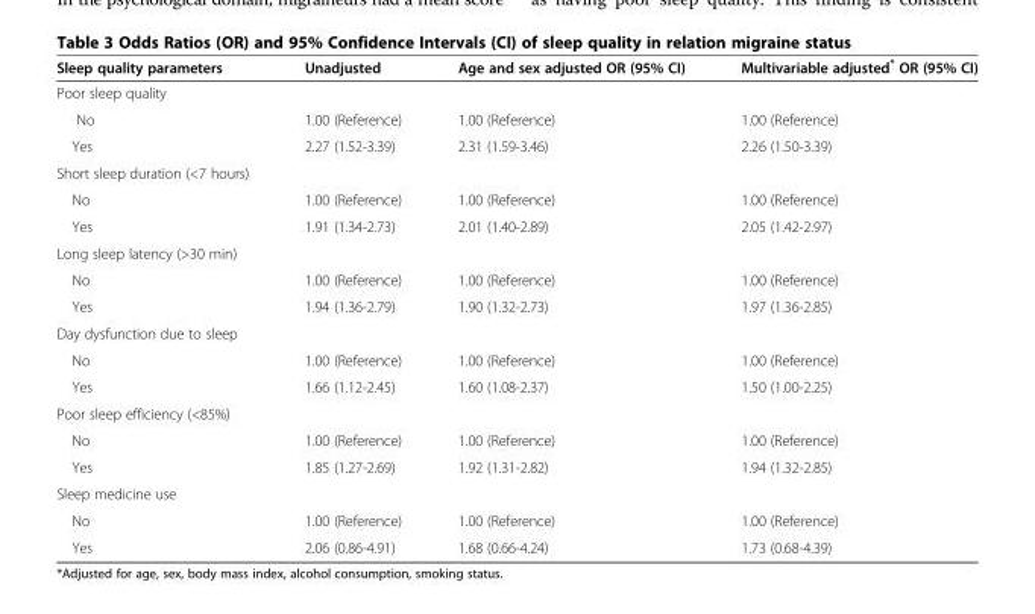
<table><thead><tr><td>Sleep quality parameters</td><td>Unadjusted</td><td>Age and sex adjusted OR (95% CI)</td><td>Multivariable adjusted* OR (95% CI)</td></tr></thead><tbody><tr><td colspan="4">Poor sleep quality</td></tr><tr><td>No</td><td>1.00 (Reference)</td><td>1.00 (Reference)</td><td>1.00 (Reference)</td></tr><tr><td>Yes</td><td>2.27 (1.52-3.39)</td><td>2.31 (1.59-3.46)</td><td>2.26 (1.50-3.39)</td></tr><tr><td colspan="4">Short sleep duration (&lt;7 hours)</td></tr><tr><td>No</td><td>1.00 (Reference)</td><td>1.00 (Reference)</td><td>1.00 (Reference)</td></tr><tr><td>Yes</td><td>1.91 (1.34-2.73)</td><td>2.01 (1.40-2.89)</td><td>2.05 (1.42-2.97)</td></tr><tr><td colspan="4">Long sleep latency (&gt;30 min)</td></tr><tr><td>No</td><td>1.00 (Reference)</td><td>1.00 (Reference)</td><td>1.00 (Reference)</td></tr><tr><td>Yes</td><td>1.94 (1.36-2.79)</td><td>1.90 (1.32-2.73)</td><td>1.97 (1.36-2.85)</td></tr><tr><td colspan="4">Day dysfunction due to sleep</td></tr><tr><td>No</td><td>1.00 (Reference)</td><td>1.00 (Reference)</td><td>1.00 (Reference)</td></tr><tr><td>Yes</td><td>1.66 (1.12-2.45)</td><td>1.60 (1.08-2.37)</td><td>1.50 (1.00-2.25)</td></tr><tr><td colspan="4">Poor sleep efficiency (&lt;85%)</td></tr><tr><td>No</td><td>1.00 (Reference)</td><td>1.00 (Reference)</td><td>1.00 (Reference)</td></tr><tr><td>Yes</td><td>1.85 (1.27-2.69)</td><td>1.92 (1.31-2.82)</td><td>1.94 (1.32-2.85)</td></tr><tr><td colspan="4">Sleep medicine use</td></tr><tr><td>No</td><td>1.00 (Reference)</td><td>1.00 (Reference)</td><td>1.00 (Reference)</td></tr><tr><td>Yes</td><td>2.06 (0.86-4.91)</td><td>1.68 (0.66-4.24)</td><td>1.73 (0.68-4.39)</td></tr></tbody></table>